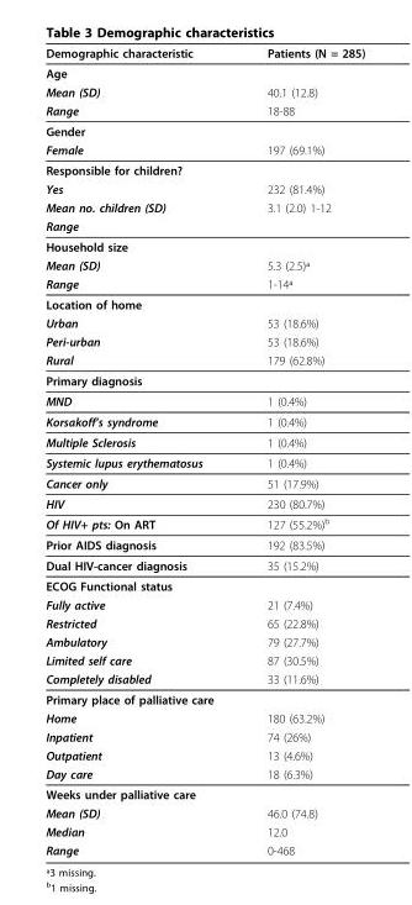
<table><thead><tr><td>Demographic characteristic</td><td>Patients (N = 285)</td></tr></thead><tbody><tr><td colspan="2">Age</td></tr><tr><td>Mean (SD)</td><td>40.1 (12.8)</td></tr><tr><td>Range</td><td>18-88</td></tr><tr><td colspan="2">Gender</td></tr><tr><td>Female</td><td>197 (69.1%)</td></tr><tr><td colspan="2">Responsible for children?</td></tr><tr><td>Yes</td><td>232 (81.4%)</td></tr><tr><td>Mean no. children (SD)</td><td>3.1 (2.0) 1-12</td></tr><tr><td colspan="2">Range</td></tr><tr><td colspan="2">Household size</td></tr><tr><td>Mean (SD)</td><td>5.3 (2.5)ª</td></tr><tr><td>Range</td><td>1-14ª</td></tr><tr><td colspan="2">Location of home</td></tr><tr><td>Urban</td><td>53 (18.6%)</td></tr><tr><td>Peri-urban</td><td>53 (18.6%)</td></tr><tr><td>Rural</td><td>179 (62.8%)</td></tr><tr><td colspan="2">Primary diagnosis</td></tr><tr><td>MND</td><td>1 (0.4%)</td></tr><tr><td>Korsakoff’s syndrome</td><td>1 (0.4%)</td></tr><tr><td>Multiple Sclerosis</td><td>1 (0.4%)</td></tr><tr><td>Systemic lupus erythematosus</td><td>1 (0.4%)</td></tr><tr><td>Cancer only</td><td>51 (17.9%)</td></tr><tr><td>HIV</td><td>230 (80.7%)</td></tr><tr><td>Of HIV+ pts: On ART</td><td>127 (55.2%)<sup>b</sup></td></tr><tr><td>Prior AIDS diagnosis</td><td>192 (83.5%)</td></tr><tr><td>Dual HIV-cancer diagnosis</td><td>35 (15.2%)</td></tr><tr><td colspan="2">ECOG Functional status</td></tr><tr><td>Fully active</td><td>21 (7.4%)</td></tr><tr><td>Restricted</td><td>65 (22.8%)</td></tr><tr><td>Ambulatory</td><td>79 (27.7%)</td></tr><tr><td>Limited self care</td><td>87 (30.5%)</td></tr><tr><td>Completely disabled</td><td>33 (11.6%)</td></tr><tr><td colspan="2">Primary place of palliative care</td></tr><tr><td>Home</td><td>180 (63.2%)</td></tr><tr><td>Inpatient</td><td>74 (26%)</td></tr><tr><td>Outpatient</td><td>13 (4.6%)</td></tr><tr><td>Day care</td><td>18 (6.3%)</td></tr><tr><td colspan="2">Weeks under palliative care</td></tr><tr><td>Mean (SD)</td><td>46.0 (74.8)</td></tr><tr><td>Median</td><td>12.0</td></tr><tr><td>Range</td><td>0-468</td></tr></tbody></table>